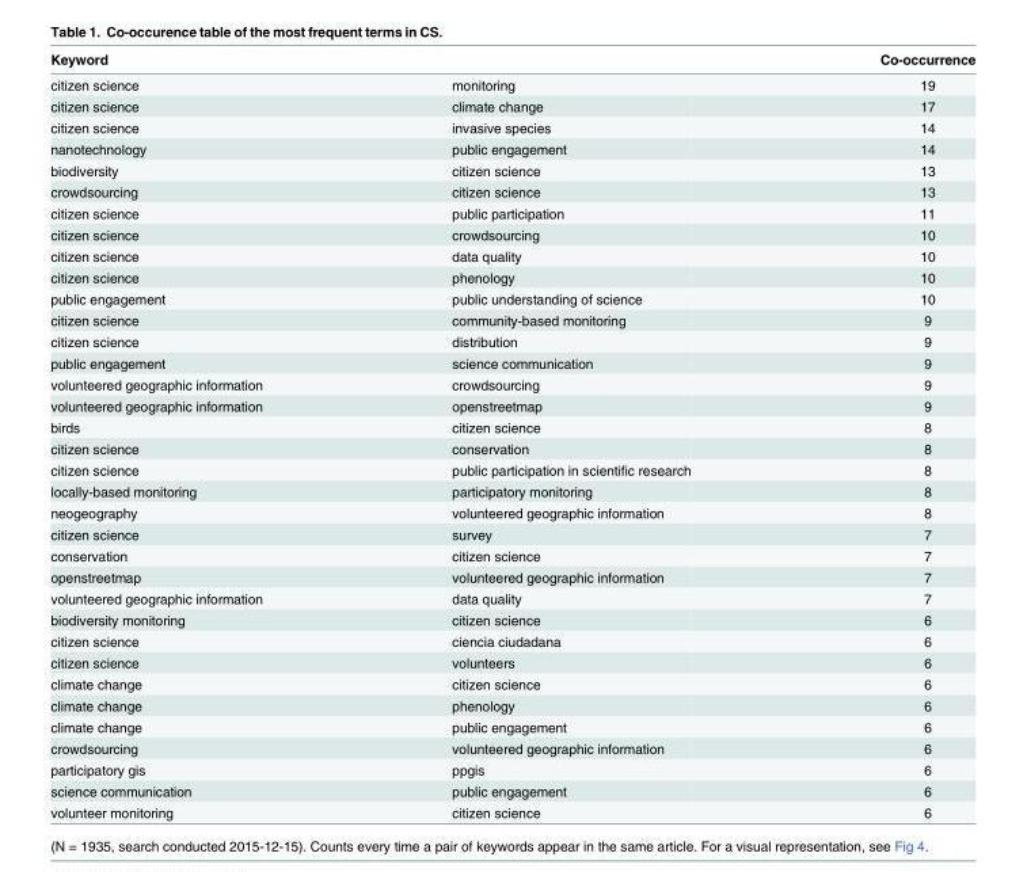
<table><thead><tr><td colspan="2">Keyword</td><td rowspan="2">Co-occurrence 19</td></tr><tr><td>citizen science</td><td>monitoring</td></tr></thead><tbody><tr><td>citizen science</td><td>climate change</td><td>17</td></tr><tr><td>citizen science</td><td>invasive species</td><td>14</td></tr><tr><td>nanotechnology</td><td>public engagement</td><td>14</td></tr><tr><td>biodiversity</td><td>citizen science</td><td>13</td></tr><tr><td>crowdsourcing</td><td>citizen science</td><td>13</td></tr><tr><td>citizen science</td><td>public participation</td><td>11</td></tr><tr><td>citizen science</td><td>crowdsourcing</td><td>10</td></tr><tr><td>citizen science</td><td>data quality</td><td>10</td></tr><tr><td>citizen science</td><td>phenology</td><td>10</td></tr><tr><td>public engagement</td><td>public understanding of science</td><td>10</td></tr><tr><td>citizen science</td><td>community-based monitoring</td><td>9</td></tr><tr><td>citizen science</td><td>distribution</td><td>9</td></tr><tr><td>public engagement</td><td>science communication</td><td>9</td></tr><tr><td>volunteered geographic information</td><td>crowdsourcing</td><td>9</td></tr><tr><td>volunteered geographic information</td><td>openstreetmap</td><td>9</td></tr><tr><td>birds</td><td>citizen science</td><td>8</td></tr><tr><td>citizen science</td><td>conservation</td><td>8</td></tr><tr><td>citizen science</td><td>public participation in scientific research</td><td>8</td></tr><tr><td>locally-based monitoring</td><td>participatory monitoring</td><td>8</td></tr><tr><td>neogeography</td><td>volunteered geographic information</td><td>8</td></tr><tr><td>citizen science</td><td>survey</td><td>7</td></tr><tr><td>conservation</td><td>citizen science</td><td>7</td></tr><tr><td>openstreetmap</td><td>volunteered geographic information</td><td>7</td></tr><tr><td>volunteered geographic information</td><td>data quality</td><td>7</td></tr><tr><td>biodiversity monitoring</td><td>citizen science</td><td>6</td></tr><tr><td>citizen science</td><td>ciencia ciudadana</td><td>6</td></tr><tr><td>citizen science</td><td>volunteers</td><td>6</td></tr><tr><td>climate change</td><td>citizen science</td><td>6</td></tr><tr><td>climate change</td><td>phenology</td><td>6</td></tr><tr><td>climate change</td><td>public engagement</td><td>6</td></tr><tr><td>crowdsourcing</td><td>volunteered geographic information</td><td>6</td></tr><tr><td>participatory gis</td><td>ppgis</td><td>6</td></tr><tr><td>science communication</td><td>public engagement</td><td>6</td></tr><tr><td>volunteer monitoring</td><td>citizen science</td><td>6</td></tr></tbody></table>